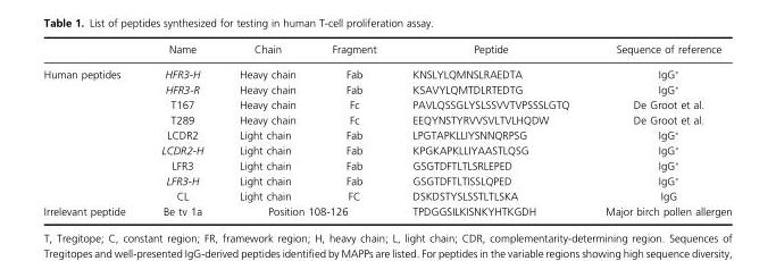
<table><thead><tr><td></td><td>Name</td><td>Chain</td><td>Fragment</td><td>Peptide</td><td>Sequence of reference</td></tr></thead><tbody><tr><td rowspan="9">Human peptides</td><td>HFR3-H</td><td>Heavy chain</td><td>Fab</td><td>KNSLYLQMNSLRAEDTA</td><td>IgG*</td></tr><tr><td>HFR3-R</td><td>Heavy chain</td><td>Fab</td><td>KSAVYLQMTDLRTEDTG</td><td>IgG*</td></tr><tr><td>T167</td><td>Heavy chain</td><td>Fc</td><td>PAVLQSSGLYSLSSVVTVPSSSLGTQ</td><td>De Groot et al.</td></tr><tr><td>T289</td><td>Heavy chain</td><td>Fc</td><td>EEQYNSTYRVVSVLTVLHQDW</td><td>De Groot et al.</td></tr><tr><td>LCDR2</td><td>Light chain</td><td>Fab</td><td>LPGTAPKLLIYSNNQRPSG</td><td>IgG*</td></tr><tr><td>LCDR2-H</td><td>Light chain</td><td>Fab</td><td>KPGKAPKLLIYAASTLQSG</td><td>IgG*</td></tr><tr><td>LFR3</td><td>Light chain</td><td>Fab</td><td>GSGTDFTLTLSRLEPED</td><td>IgG*</td></tr><tr><td>LFR3-H</td><td>Light chain</td><td>Fab</td><td>GSGTDFTLTISSLQPED</td><td>IgG*</td></tr><tr><td>CL</td><td>Light chain</td><td>FC</td><td>DSKDSTYSLSSTLTLSKA</td><td>IgG</td></tr><tr><td>Irrelevant peptide</td><td>Be tv 1a</td><td colspan="2">Position 108-126</td><td>TPDGGSILKISNKYHTKGDH</td><td>Major birch pollen allergen</td></tr></tbody></table>